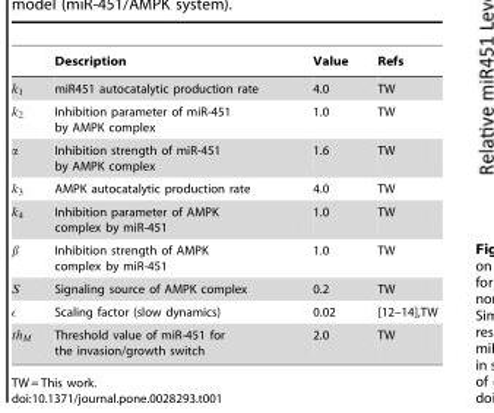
<table><thead><tr><td>Description</td><td>Value</td><td>Refs</td></tr></thead><tbody><tr><td>miR451 autocatalytic production rate</td><td>4.0</td><td>TW</td></tr><tr><td>Inhibition parameter of miR-451 by AMPK complex</td><td>1.0</td><td>TW</td></tr><tr><td>Inhibition strength of miR-451 by AMPK complex</td><td>1.6</td><td>TW</td></tr><tr><td>AMPK autocatalytic production rate</td><td>4.0</td><td>TW</td></tr><tr><td>Inhibition parameter of AMPK complex by miR-451</td><td>1.0</td><td>TW</td></tr><tr><td>Inhibition strength of AMPK complex by miR-451</td><td>1.0</td><td>TW</td></tr><tr><td>Signaling source of AMPK complex</td><td>0.2</td><td>TW</td></tr><tr><td>Scaling factor (slow dynamics)</td><td>0.02</td><td>[12–14],TW</td></tr><tr><td>Threshold value of miR-451 for the invasion/growth switch</td><td>2.0</td><td>TW</td></tr></tbody></table>